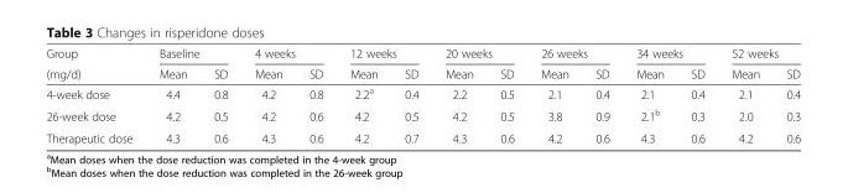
<table><thead><tr><td rowspan="2">Group (mg/d)</td><td colspan="2">Baseline</td><td colspan="2">4 weeks</td><td colspan="2">12 weeks</td><td colspan="2">20 weeks</td><td colspan="2">26 weeks</td><td colspan="2">34 weeks</td><td colspan="2">52 weeks</td></tr><tr><td>Mean</td><td>SD</td><td>Mean</td><td>SD</td><td>Mean</td><td>SD</td><td>Mean</td><td>SD</td><td>Mean</td><td>SD</td><td>Mean</td><td>SD</td><td>Mean</td><td>SD</td></tr></thead><tbody><tr><td>4-week dose</td><td>4.4</td><td>0.8</td><td>4.2</td><td>0.8</td><td>2.2<sup>a</sup></td><td>0.4</td><td>2.2</td><td>0.5</td><td>2.1</td><td>0.4</td><td>2.1</td><td>0.4</td><td>2.1</td><td>0.4</td></tr><tr><td>26-week dose</td><td>4.2</td><td>0.5</td><td>4.2</td><td>0.6</td><td>4.2</td><td>0.5</td><td>4.2</td><td>0.5</td><td>3.8</td><td>0.9</td><td>2.1<sup>b</sup></td><td>0.3</td><td>2.0</td><td>0.3</td></tr><tr><td>Therapeutic dose</td><td>4.3</td><td>0.6</td><td>4.3</td><td>0.6</td><td>4.2</td><td>0.7</td><td>4.3</td><td>0.6</td><td>4.2</td><td>0.6</td><td>4.3</td><td>0.6</td><td>4.2</td><td>0.6</td></tr></tbody></table>